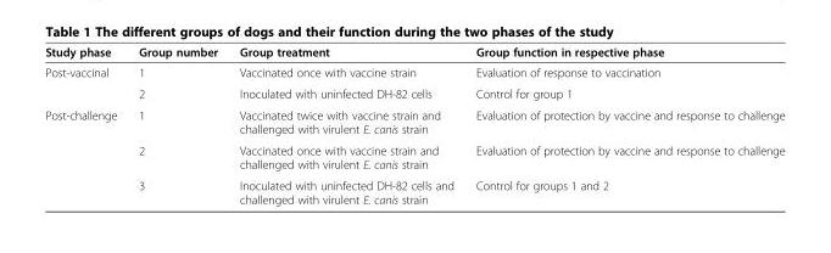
<table><thead><tr><td>Study phase</td><td>Group number</td><td>Group treatment</td><td>Group function in respective phase</td></tr></thead><tbody><tr><td rowspan="2">Post-vaccinal</td><td>1</td><td>Vaccinated once with vaccine strain</td><td>Evaluation of response to vaccination</td></tr><tr><td>2</td><td>Inoculated with uninfected DH-82 cells</td><td>Control for group 1</td></tr><tr><td rowspan="3">Post-challenge</td><td>1</td><td>Vaccinated twice with vaccine strain and challenged with virulent E. canis strain</td><td>Evaluation of protection by vaccine and response to challenge</td></tr><tr><td>2</td><td>Vaccinated once with vaccine strain and challenged with virulent E. canis strain</td><td>Evaluation of protection by vaccine and response to challenge</td></tr><tr><td>3</td><td>Inoculated with uninfected DH-82 cells and challenged with virulent E. canis strain</td><td>Control for groups 1 and 2</td></tr></tbody></table>